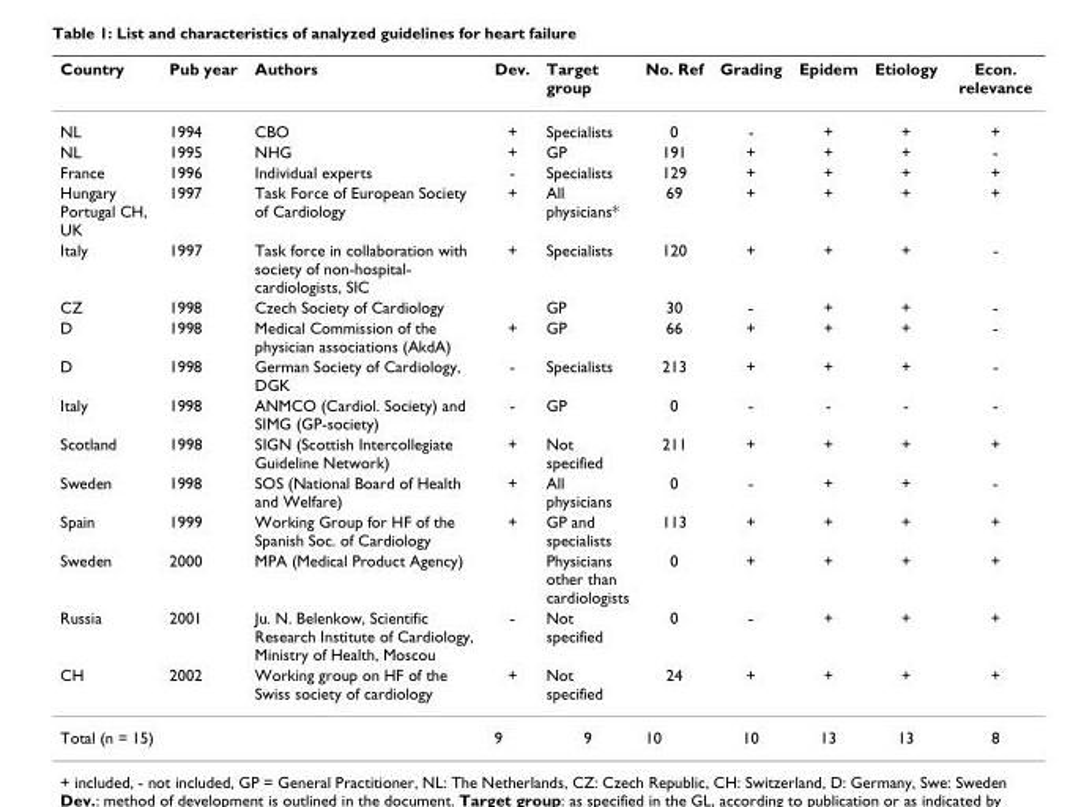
<table><thead><tr><td>Country</td><td>Pub year</td><td>Authors</td><td>Dev.</td><td>Target group</td><td>No. Ref</td><td>Grading</td><td>Epidem</td><td>Etiology</td><td>Econ. relevance</td></tr></thead><tbody><tr><td>NL</td><td>1994</td><td>CBO</td><td>+</td><td>Specialists</td><td>0</td><td>-</td><td>+</td><td>+</td><td>+</td></tr><tr><td>NL</td><td>1995</td><td>NHG</td><td>+</td><td>GP</td><td>191</td><td>+</td><td>+</td><td>+</td><td>-</td></tr><tr><td>France</td><td>1996</td><td>Individual experts</td><td>-</td><td>Specialists</td><td>129</td><td>+</td><td>+</td><td>+</td><td>+</td></tr><tr><td>Hungary Portugal CH, UK</td><td>1997</td><td>Task Force of European Society of Cardiology</td><td>+</td><td>All physicians*</td><td>69</td><td>+</td><td>+</td><td>+</td><td>+</td></tr><tr><td>Italy</td><td>1997</td><td>Task force in collaboration with society of non-hospital- cardiologists, SIC</td><td>+</td><td>Specialists</td><td>120</td><td>+</td><td>+</td><td>+</td><td>-</td></tr><tr><td>CZ</td><td>1998</td><td>Czech Society of Cardiology</td><td></td><td>GP</td><td>30</td><td>-</td><td>+</td><td>+</td><td>-</td></tr><tr><td>D</td><td>1998</td><td>Medical Commission of the physician associations (AkdA)</td><td>+</td><td>GP</td><td>66</td><td>+</td><td>+</td><td>+</td><td>-</td></tr><tr><td>D</td><td>1998</td><td>German Society of Cardiology, DGK</td><td>-</td><td>Specialists</td><td>213</td><td>+</td><td>+</td><td>+</td><td>-</td></tr><tr><td>Italy</td><td>1998</td><td>ANMCO (Cardiol. Society) and SIMG (GP-society)</td><td>-</td><td>GP</td><td>0</td><td>-</td><td>-</td><td>-</td><td>-</td></tr><tr><td>Scotland</td><td>1998</td><td>SIGN (Scottish Intercollegiate Guideline Network)</td><td>+</td><td>Not specified</td><td>211</td><td>+</td><td>+</td><td>+</td><td>+</td></tr><tr><td>Sweden</td><td>1998</td><td>SOS (National Board of Health and Welfare)</td><td>+</td><td>All physicians</td><td>0</td><td>-</td><td>+</td><td>+</td><td>-</td></tr><tr><td>Spain</td><td>1999</td><td>Working Group for HF of the Spanish Soc. of Cardiology</td><td>+</td><td>GP and specialists</td><td>113</td><td>+</td><td>+</td><td>+</td><td>+</td></tr><tr><td>Sweden</td><td>2000</td><td>MPA (Medical Product Agency)</td><td></td><td>Physicians other than cardiologists</td><td>0</td><td>+</td><td>+</td><td>+</td><td>+</td></tr><tr><td>Russia</td><td>2001</td><td>Ju. N. Belenkow, Scientific Research Institute of Cardiology, Ministry of Health, Moscou</td><td>-</td><td>Not specified</td><td>0</td><td>-</td><td>+</td><td>+</td><td>+</td></tr><tr><td>CH</td><td>2002</td><td>Working group on HF of the Swiss society of cardiology</td><td>+</td><td>Not specified</td><td>24</td><td>+</td><td>+</td><td>+</td><td>+</td></tr><tr><td colspan="2">Total (n = 15)</td><td></td><td>9</td><td>9</td><td>10</td><td>10</td><td>13</td><td>13</td><td>8</td></tr></tbody></table>